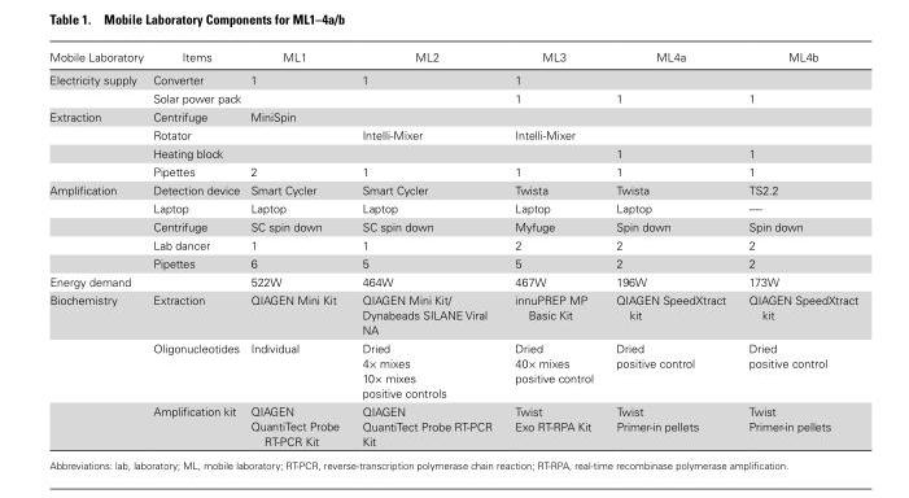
<table><thead><tr><td>Mobile Laboratory</td><td>Items</td><td>ML1</td><td>ML2</td><td>ML3</td><td>ML4a</td><td>ML4b</td></tr></thead><tbody><tr><td rowspan="2">Electricity supply</td><td>Converter</td><td>1</td><td>1</td><td>1</td><td></td><td></td></tr><tr><td>Solar power pack</td><td></td><td></td><td>1</td><td>1</td><td>1</td></tr><tr><td rowspan="4">Extraction</td><td>Centrifuge</td><td>MiniSpin</td><td></td><td></td><td></td><td></td></tr><tr><td>Rotator</td><td></td><td>Intelli-Mixer</td><td>Intelli-Mixer</td><td></td><td></td></tr><tr><td>Heating block</td><td></td><td></td><td></td><td>1</td><td>1</td></tr><tr><td>Pipettes</td><td>2</td><td>1</td><td>1</td><td>1</td><td>1</td></tr><tr><td rowspan="5">Amplification</td><td>Detection device</td><td>Smart Cycler</td><td>Smart Cycler</td><td>Twista</td><td>Twista</td><td>TS2.2</td></tr><tr><td>Laptop</td><td>Laptop</td><td>Laptop</td><td>Laptop</td><td>Laptop</td><td>----</td></tr><tr><td>Centrifuge</td><td>SC spin down</td><td>SC spin down</td><td>Myfuge</td><td>Spin down</td><td>Spin down</td></tr><tr><td>Lab dancer</td><td>1</td><td>1</td><td>2</td><td>2</td><td>2</td></tr><tr><td>Pipettes</td><td>6</td><td>5</td><td>5</td><td>2</td><td>2</td></tr><tr><td>Energy demand</td><td></td><td>522W</td><td>464W</td><td>467W</td><td>196W</td><td>173W</td></tr><tr><td rowspan="3">Biochemistry</td><td>Extraction</td><td>QIAGEN Mini Kit</td><td>QIAGEN Mini Kit/ Dynabeads SILANE Viral NA</td><td>innuPREP MP Basic Kit</td><td>QIAGEN SpeedXtract kit</td><td>QIAGEN SpeedXtract kit</td></tr><tr><td>Oligonucleotides</td><td>Individual</td><td>Dried 4× mixes 10× mixes positive controls</td><td>Dried 40× mixes positive control</td><td>Dried positive control</td><td>Dried positive control</td></tr><tr><td>Amplification kit</td><td>QIAGEN QuantiTect Probe RT-PCR Kit</td><td>QIAGEN QuantiTect Probe RT-PCR Kit</td><td>Twist Exo RT-RPA Kit</td><td>Twist Primer-in pellets</td><td>Twist Primer-in pellets</td></tr></tbody></table>